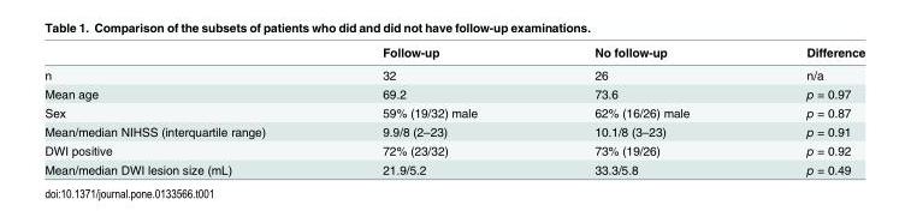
<table><thead><tr><td></td><td>Follow-up</td><td>No follow-up</td><td>Difference</td></tr></thead><tbody><tr><td>n</td><td>32</td><td>26</td><td>n/a</td></tr><tr><td>Mean age</td><td>69.2</td><td>73.6</td><td>p = 0.97</td></tr><tr><td>Sex</td><td>59% (19/32) male</td><td>62% (16/26) male</td><td>p = 0.87</td></tr><tr><td>Mean/median NIHSS (interquartile range)</td><td>9.9/8 (2–23)</td><td>10.1/8 (3–23)</td><td>p = 0.91</td></tr><tr><td>DWI positive</td><td>72% (23/32)</td><td>73% (19/26)</td><td>p = 0.92</td></tr><tr><td>Mean/median DWI lesion size (mL)</td><td>21.9/5.2</td><td>33.3/5.8</td><td>p = 0.49</td></tr></tbody></table>